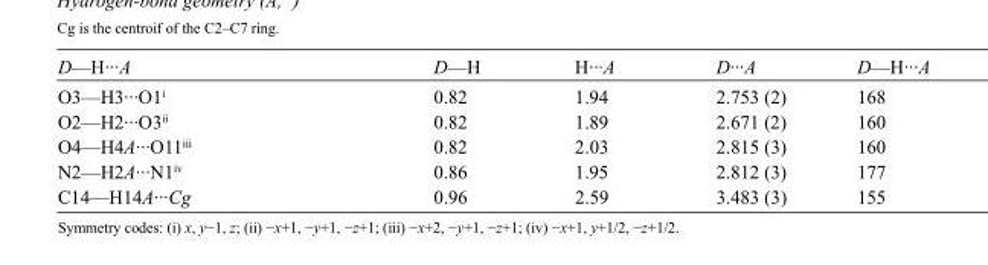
<table><tbody><tr><td>D—H···A</td><td>D—H</td><td>H···A</td><td>D···A</td><td>D—H···A</td></tr><tr><td>O3—H3···O1<sup>i</sup></td><td>0.82</td><td>1.94</td><td>2.753 (2)</td><td>168</td></tr><tr><td>O2—H2···O3<sup>ii</sup></td><td>0.82</td><td>1.89</td><td>2.671 (2)</td><td>160</td></tr><tr><td>O4—H4A···O11<sup>iii</sup></td><td>0.82</td><td>2.03</td><td>2.815 (3)</td><td>160</td></tr><tr><td>N2—H2A···N1<sup>iv</sup></td><td>0.86</td><td>1.95</td><td>2.812 (3)</td><td>177</td></tr><tr><td>C14—H14A···Cg</td><td>0.96</td><td>2.59</td><td>3.483 (3)</td><td>155</td></tr></tbody></table>